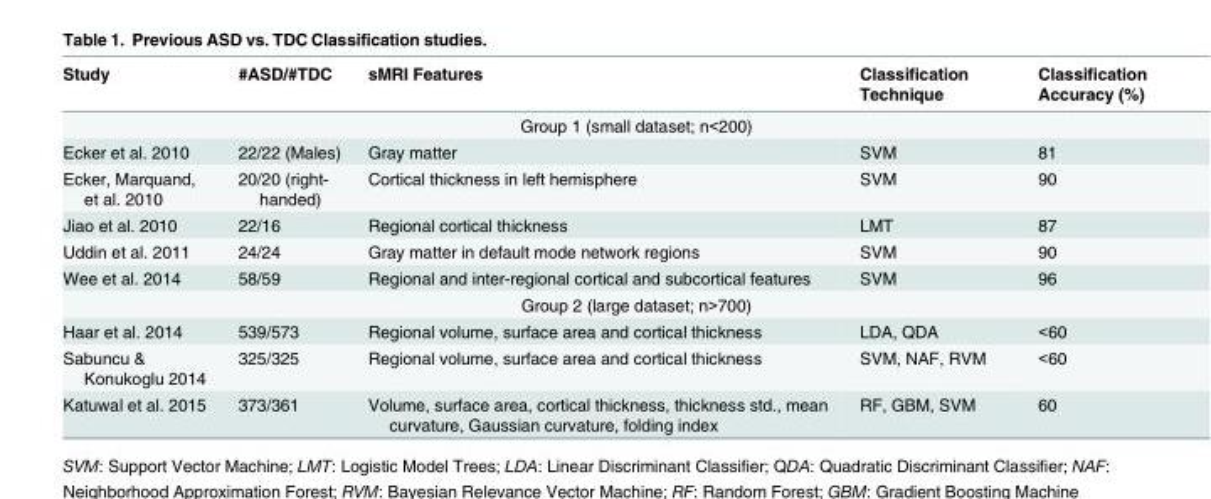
<table><thead><tr><td>Study</td><td>#ASD/#TDC</td><td>sMRI Features</td><td>Classification Technique</td><td>Classification Accuracy (%)</td></tr></thead><tbody><tr><td colspan="5">Group 1 (small dataset; n&lt;200)</td></tr><tr><td>Ecker et al. 2010</td><td>22/22 (Males)</td><td>Gray matter</td><td>SVM</td><td>81</td></tr><tr><td>Ecker, Marquand, et al. 2010</td><td>20/20 (right- handed)</td><td>Cortical thickness in left hemisphere</td><td>SVM</td><td>90</td></tr><tr><td>Jiao et al. 2010</td><td>22/16</td><td>Regional cortical thickness</td><td>LMT</td><td>87</td></tr><tr><td>Uddin et al. 2011</td><td>24/24</td><td>Gray matter in default mode network regions</td><td>SVM</td><td>90</td></tr><tr><td>Wee et al. 2014</td><td>58/59</td><td>Regional and inter-regional cortical and subcortical features</td><td>SVM</td><td>96</td></tr><tr><td colspan="5">Group 2 (large dataset; n&gt;700)</td></tr><tr><td>Haar et al. 2014</td><td>539/573</td><td>Regional volume, surface area and cortical thickness</td><td>LDA, QDA</td><td>&lt;60</td></tr><tr><td>Sabuncu &amp; Konukoglu 2014</td><td>325/325</td><td>Regional volume, surface area and cortical thickness</td><td>SVM, NAF, RVM</td><td>&lt;60</td></tr><tr><td>Katuwal et al. 2015</td><td>373/361</td><td>Volume, surface area, cortical thickness, thickness std., mean curvature, Gaussian curvature, folding index</td><td>RF, GBM, SVM</td><td>60</td></tr></tbody></table>